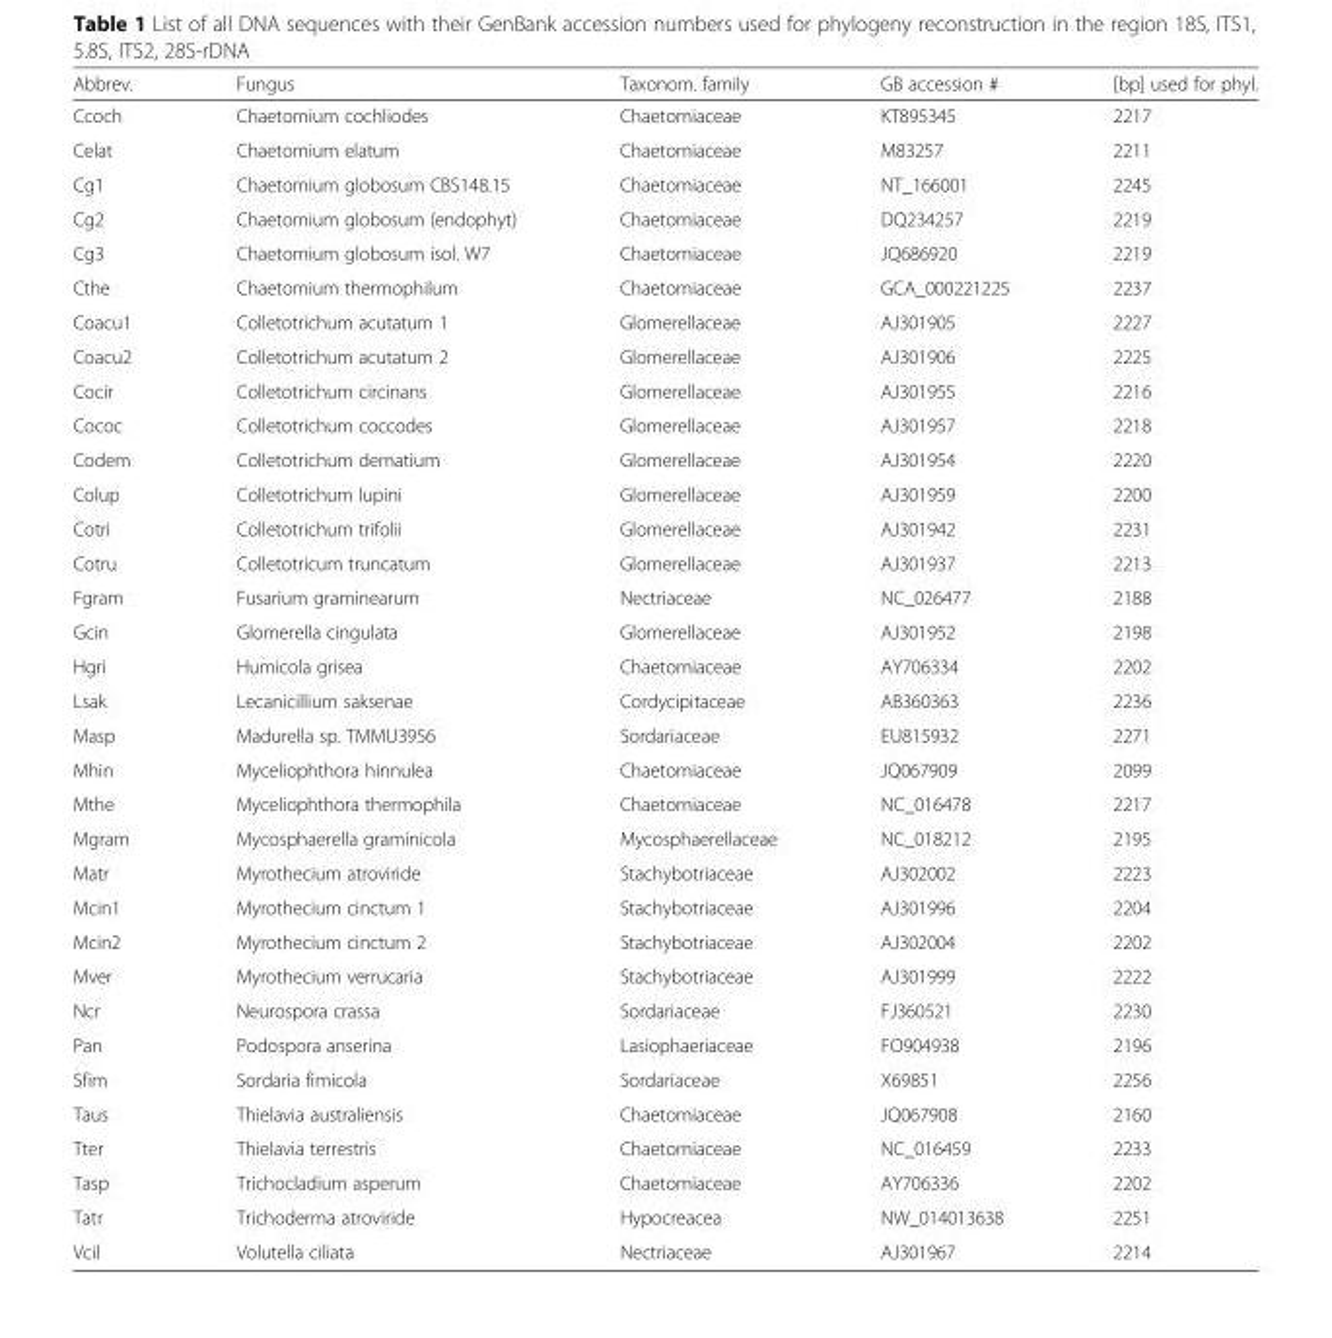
<table><thead><tr><td>Abbrev.</td><td>Fungus</td><td>Taxonom. family</td><td>GB accession #</td><td>[bp] used for phyl.</td></tr></thead><tbody><tr><td>Ccoch</td><td>Chaetomium cochliodes</td><td>Chaetomiaceae</td><td>KT895345</td><td>2217</td></tr><tr><td>Celat</td><td>Chaetomium elatum</td><td>Chaetomiaceae</td><td>M83257</td><td>2211</td></tr><tr><td>Cg1</td><td>Chaetomium globosum CBS148.15</td><td>Chaetomiaceae</td><td>NT_166001</td><td>2245</td></tr><tr><td>Cg2</td><td>Chaetomium globosum (endophyt)</td><td>Chaetomiaceae</td><td>DQ234257</td><td>2219</td></tr><tr><td>Cg3</td><td>Chaetomium globosum isol. W7</td><td>Chaetomiaceae</td><td>JQ686920</td><td>2219</td></tr><tr><td>Cthe</td><td>Chaetomium thermophilum</td><td>Chaetomiaceae</td><td>GCA_000221225</td><td>2237</td></tr><tr><td>Coacu1</td><td>Colletotrichum acutatum 1</td><td>Glomerellaceae</td><td>AJ301905</td><td>2227</td></tr><tr><td>Coacu2</td><td>Colletotrichum acutatum 2</td><td>Glomerellaceae</td><td>AJ301906</td><td>2225</td></tr><tr><td>Cocir</td><td>Colletotrichum circinans</td><td>Glomerellaceae</td><td>AJ301955</td><td>2216</td></tr><tr><td>Cococ</td><td>Colletotrichum coccodes</td><td>Glomerellaceae</td><td>AJ301957</td><td>2218</td></tr><tr><td>Codem</td><td>Colletotrichum dematium</td><td>Glomerellaceae</td><td>AJ301954</td><td>2220</td></tr><tr><td>Colup</td><td>Colletotrichum lupini</td><td>Glomerellaceae</td><td>AJ301959</td><td>2200</td></tr><tr><td>Cotri</td><td>Colletotrichum trifolii</td><td>Glomerellaceae</td><td>AJ301942</td><td>2231</td></tr><tr><td>Cotru</td><td>Colletotricum truncatum</td><td>Glomerellaceae</td><td>AJ301937</td><td>2213</td></tr><tr><td>Fgram</td><td>Fusarium graminearum</td><td>Nectriaceae</td><td>NC_026477</td><td>2188</td></tr><tr><td>Gcin</td><td>Glomerella cingulata</td><td>Glomerellaceae</td><td>AJ301952</td><td>2198</td></tr><tr><td>Hgri</td><td>Humicola grisea</td><td>Chaetomiaceae</td><td>AY706334</td><td>2202</td></tr><tr><td>Lsak</td><td>Lecanicillium saksenae</td><td>Cordycipitaceae</td><td>AB360363</td><td>2236</td></tr><tr><td>Masp</td><td>Madurella sp. TMMU3956</td><td>Sordariaceae</td><td>EU815932</td><td>2271</td></tr><tr><td>Mhin</td><td>Myceliophthora hinnulea</td><td>Chaetomiaceae</td><td>JQ067909</td><td>2099</td></tr><tr><td>Mthe</td><td>Myceliophthora thermophila</td><td>Chaetomiaceae</td><td>NC_016478</td><td>2217</td></tr><tr><td>Mgram</td><td>Mycosphaerella graminicola</td><td>Mycosphaerellaceae</td><td>NC_018212</td><td>2195</td></tr><tr><td>Matr</td><td>Myrothecium atroviride</td><td>Stachybotriaceae</td><td>AJ302002</td><td>2223</td></tr><tr><td>Mcin1</td><td>Myrothecium cinctum 1</td><td>Stachybotriaceae</td><td>AJ301996</td><td>2204</td></tr><tr><td>Mcin2</td><td>Myrothecium cinctum 2</td><td>Stachybotriaceae</td><td>AJ302004</td><td>2202</td></tr><tr><td>Mver</td><td>Myrothecium verrucaria</td><td>Stachybotriaceae</td><td>AJ301999</td><td>2222</td></tr><tr><td>Ncr</td><td>Neurospora crassa</td><td>Sordariaceae</td><td>FJ360521</td><td>2230</td></tr><tr><td>Pan</td><td>Podospora anserina</td><td>Lasiophaeriaceae</td><td>FO904938</td><td>2196</td></tr><tr><td>Sfim</td><td>Sordaria fimicola</td><td>Sordariaceae</td><td>X69851</td><td>2256</td></tr><tr><td>Taus</td><td>Thielavia australiensis</td><td>Chaetomiaceae</td><td>JQ067908</td><td>2160</td></tr><tr><td>Tter</td><td>Thielavia terrestris</td><td>Chaetomiaceae</td><td>NC_016459</td><td>2233</td></tr><tr><td>Tasp</td><td>Trichocladium asperum</td><td>Chaetomiaceae</td><td>AY706336</td><td>2202</td></tr><tr><td>Tatr</td><td>Trichoderma atroviride</td><td>Hypocreacea</td><td>NW_014013638</td><td>2251</td></tr><tr><td>Vcil</td><td>Volutella ciliata</td><td>Nectriaceae</td><td>AJ301967</td><td>2214</td></tr></tbody></table>